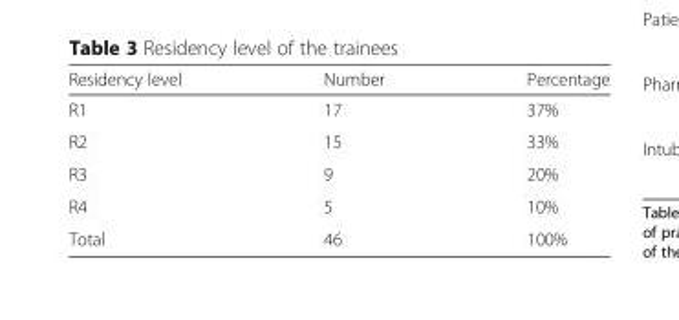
<table><thead><tr><td>Residency level</td><td>Number</td><td>Percentage</td></tr></thead><tbody><tr><td>R1</td><td>17</td><td>37%</td></tr><tr><td>R2</td><td>15</td><td>33%</td></tr><tr><td>R3</td><td>9</td><td>20%</td></tr><tr><td>R4</td><td>5</td><td>10%</td></tr><tr><td>Total</td><td>46</td><td>100%</td></tr></tbody></table>